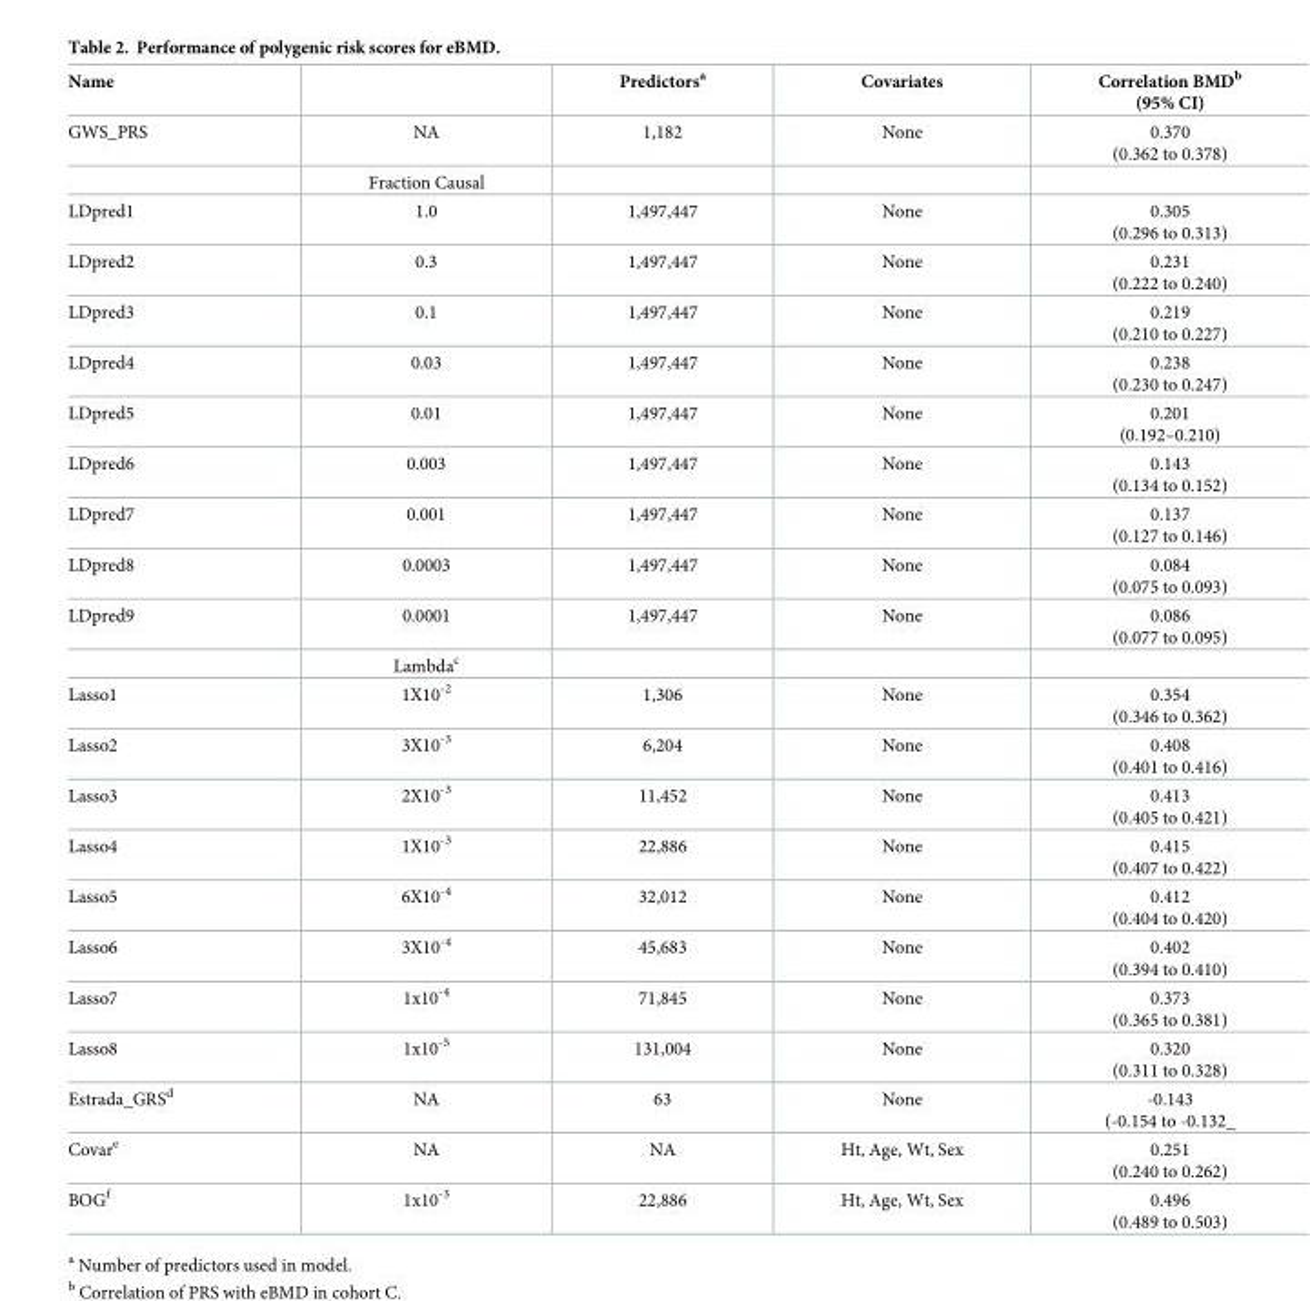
<table><thead><tr><td>Name</td><td></td><td>Predictors<sup>a</sup></td><td>Covariates</td><td>Correlation BMD<sup>b</sup> (95% CI)</td></tr></thead><tbody><tr><td rowspan="2">GWS_PRS</td><td>NA</td><td>1,182</td><td>None</td><td>0.370 (0.362 to 0.378)</td></tr><tr><td>Fraction Causal</td><td></td><td></td><td></td></tr><tr><td>LDpred1</td><td>1.0</td><td>1,497,447</td><td>None</td><td>0.305 (0.296 to 0.313)</td></tr><tr><td>LDpred2</td><td>0.3</td><td>1,497,447</td><td>None</td><td>0.231 (0.222 to 0.240)</td></tr><tr><td>LDpred3</td><td>0.1</td><td>1,497,447</td><td>None</td><td>0.219 (0.210 to 0.227)</td></tr><tr><td>LDpred4</td><td>0.03</td><td>1,497,447</td><td>None</td><td>0.238 (0.230 to 0.247)</td></tr><tr><td>LDpred5</td><td>0.01</td><td>1,497,447</td><td>None</td><td>0.201 (0.192–0.210)</td></tr><tr><td>LDpred6</td><td>0.003</td><td>1,497,447</td><td>None</td><td>0.143 (0.134 to 0.152)</td></tr><tr><td>LDpred7</td><td>0.001</td><td>1,497,447</td><td>None</td><td>0.137 (0.127 to 0.146)</td></tr><tr><td>LDpred8</td><td>0.0003</td><td>1,497,447</td><td>None</td><td>0.084 (0.075 to 0.093)</td></tr><tr><td rowspan="2">LDpred9</td><td>0.0001</td><td>1,497,447</td><td>None</td><td>0.086 (0.077 to 0.095)</td></tr><tr><td>Lambda<sup>c</sup></td><td></td><td></td><td></td></tr><tr><td>Lasso1</td><td>1X10<sup>-2</sup></td><td>1,306</td><td>None</td><td>0.354 (0.346 to 0.362)</td></tr><tr><td>Lasso2</td><td>3X10<sup>-3</sup></td><td>6,204</td><td>None</td><td>0.408 (0.401 to 0.416)</td></tr><tr><td>Lasso3</td><td>2X10<sup>-3</sup></td><td>11,452</td><td>None</td><td>0.413 (0.405 to 0.421)</td></tr><tr><td>Lasso4</td><td>1X10<sup>-3</sup></td><td>22,886</td><td>None</td><td>0.415 (0.407 to 0.422)</td></tr><tr><td>Lasso5</td><td>6X10<sup>-4</sup></td><td>32,012</td><td>None</td><td>0.412 (0.404 to 0.420)</td></tr><tr><td>Lasso6</td><td>3X10<sup>-4</sup></td><td>45,683</td><td>None</td><td>0.402 (0.394 to 0.410)</td></tr><tr><td>Lasso7</td><td>1x10<sup>-4</sup></td><td>71,845</td><td>None</td><td>0.373 (0.365 to 0.381)</td></tr><tr><td>Lasso8</td><td>1x10<sup>-5</sup></td><td>131,004</td><td>None</td><td>0.320 (0.311 to 0.328)</td></tr><tr><td>Estrada_GRS<sup>d</sup></td><td>NA</td><td>63</td><td>None</td><td>-0.143 (-0.154 to -0.132_</td></tr><tr><td>Covar<sup>e</sup></td><td>NA</td><td>NA</td><td>Ht, Age, Wt, Sex</td><td>0.251 (0.240 to 0.262)</td></tr><tr><td>BOG<sup>f</sup></td><td>1x10<sup>-3</sup></td><td>22,886</td><td>Ht, Age, Wt, Sex</td><td>0.496 (0.489 to 0.503)</td></tr></tbody></table>